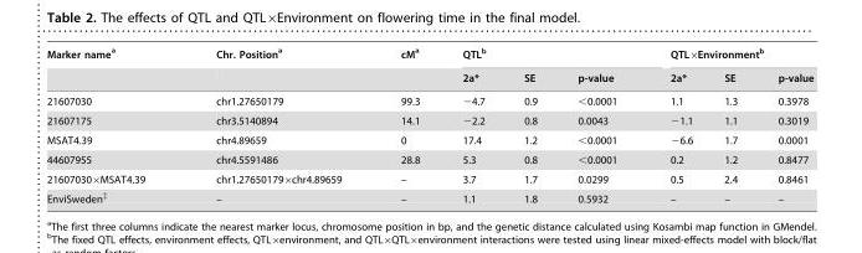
<table><thead><tr><td rowspan="2">Marker name<sup>a</sup></td><td rowspan="2">Chr. Position<sup>a</sup></td><td rowspan="2">cM<sup>a</sup></td><td colspan="3">QTL<sup>b</sup></td><td colspan="3">QTL×Environment<sup>b</sup></td></tr><tr><td>2a*</td><td>SE</td><td>p-value</td><td>2a*</td><td>SE</td><td>p-value</td></tr></thead><tbody><tr><td>21607030</td><td>chr1.27650179</td><td>99.3</td><td>−4.7</td><td>0.9</td><td>&lt;0.0001</td><td>1.1</td><td>1.3</td><td>0.3978</td></tr><tr><td>21607175</td><td>chr3.5140894</td><td>14.1</td><td>−2.2</td><td>0.8</td><td>0.0043</td><td>−1.1</td><td>1.1</td><td>0.3019</td></tr><tr><td>MSAT4.39</td><td>chr4.89659</td><td>0</td><td>17.4</td><td>1.2</td><td>&lt;0.0001</td><td>−6.6</td><td>1.7</td><td>0.0001</td></tr><tr><td>44607955</td><td>chr4.5591486</td><td>28.8</td><td>5.3</td><td>0.8</td><td>&lt;0.0001</td><td>0.2</td><td>1.2</td><td>0.8477</td></tr><tr><td>21607030×MSAT4.39</td><td>chr1.27650179×chr4.89659</td><td>–</td><td>3.7</td><td>1.7</td><td>0.0299</td><td>0.5</td><td>2.4</td><td>0.8461</td></tr><tr><td>EnviSweden‡</td><td>–</td><td>–</td><td>1.1</td><td>1.8</td><td>0.5932</td><td>–</td><td>–</td><td>–</td></tr></tbody></table>